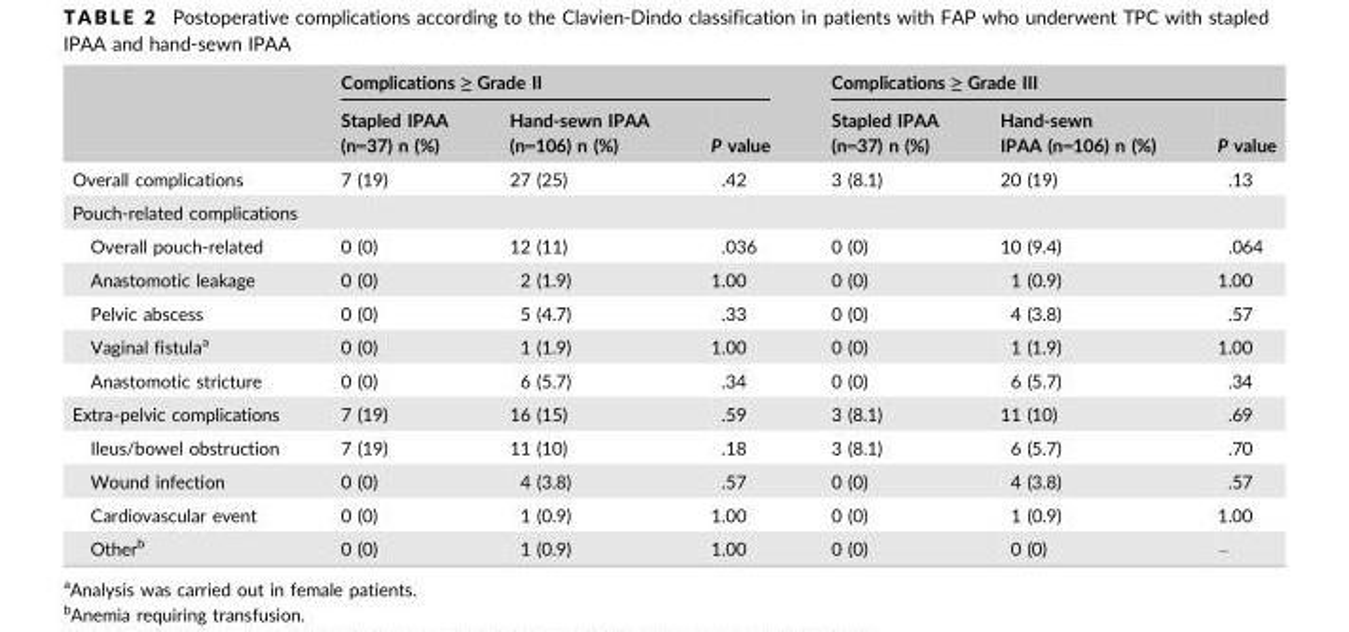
<table><thead><tr><td rowspan="2"></td><td colspan="3">Complications ≥ Grade II</td><td colspan="3">Complications ≥ Grade III</td></tr><tr><td>Stapled IPAA (n=37) n (%)</td><td>Hand-sewn IPAA (n=106) n (%)</td><td>P value</td><td>Stapled IPAA (n=37) n (%)</td><td>Hand-sewn IPAA (n=106) n (%)</td><td>P value</td></tr></thead><tbody><tr><td>Overall complications</td><td>7 (19)</td><td>27 (25)</td><td>.42</td><td>3 (8.1)</td><td>20 (19)</td><td>.13</td></tr><tr><td colspan="7">Pouch-related complications</td></tr><tr><td>Overall pouch-related</td><td>0 (0)</td><td>12 (11)</td><td>.036</td><td>0 (0)</td><td>10 (9.4)</td><td>.064</td></tr><tr><td>Anastomotic leakage</td><td>0 (0)</td><td>2 (1.9)</td><td>1.00</td><td>0 (0)</td><td>1 (0.9)</td><td>1.00</td></tr><tr><td>Pelvic abscess</td><td>0 (0)</td><td>5 (4.7)</td><td>.33</td><td>0 (0)</td><td>4 (3.8)</td><td>.57</td></tr><tr><td>Vaginal fistula<sup>a</sup></td><td>0 (0)</td><td>1 (1.9)</td><td>1.00</td><td>0 (0)</td><td>1 (1.9)</td><td>1.00</td></tr><tr><td>Anastomotic stricture</td><td>0 (0)</td><td>6 (5.7)</td><td>.34</td><td>0 (0)</td><td>6 (5.7)</td><td>.34</td></tr><tr><td>Extra-pelvic complications</td><td>7 (19)</td><td>16 (15)</td><td>.59</td><td>3 (8.1)</td><td>11 (10)</td><td>.69</td></tr><tr><td>Ileus/bowel obstruction</td><td>7 (19)</td><td>11 (10)</td><td>.18</td><td>3 (8.1)</td><td>6 (5.7)</td><td>.70</td></tr><tr><td>Wound infection</td><td>0 (0)</td><td>4 (3.8)</td><td>.57</td><td>0 (0)</td><td>4 (3.8)</td><td>.57</td></tr><tr><td>Cardiovascular event</td><td>0 (0)</td><td>1 (0.9)</td><td>1.00</td><td>0 (0)</td><td>1 (0.9)</td><td>1.00</td></tr><tr><td>Other<sup>b</sup></td><td>0 (0)</td><td>1 (0.9)</td><td>1.00</td><td>0 (0)</td><td>0 (0)</td><td>–</td></tr></tbody></table>